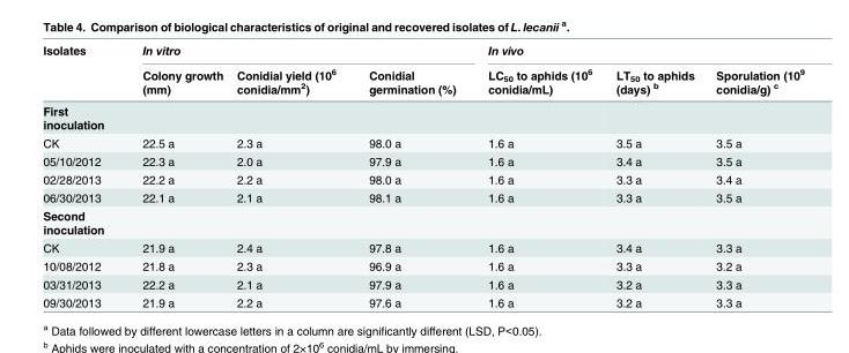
<table><thead><tr><td rowspan="2">Isolates</td><td colspan="3">In vitro</td><td colspan="3">In vivo</td></tr><tr><td>Colony growth (mm)</td><td>Conidial yield (10<sup>6</sup> conidia/mm<sup>2</sup>)</td><td>Conidial germination (%)</td><td>LC<sub>50</sub> to aphids (10<sup>6</sup> conidia/mL)</td><td>LT<sub>50</sub> to aphids (days) <sup>b</sup></td><td>Sporulation (10<sup>9</sup> conidia/g) <sup>c</sup></td></tr></thead><tbody><tr><td colspan="7">First inoculation</td></tr><tr><td>CK</td><td>22.5 a</td><td>2.3 a</td><td>98.0 a</td><td>1.6 a</td><td>3.5 a</td><td>3.5 a</td></tr><tr><td>05/10/2012</td><td>22.3 a</td><td>2.0 a</td><td>97.9 a</td><td>1.6 a</td><td>3.4 a</td><td>3.5 a</td></tr><tr><td>02/28/2013</td><td>22.2 a</td><td>2.2 a</td><td>98.0 a</td><td>1.6 a</td><td>3.3 a</td><td>3.4 a</td></tr><tr><td>06/30/2013</td><td>22.1 a</td><td>2.1 a</td><td>98.1 a</td><td>1.6 a</td><td>3.3 a</td><td>3.5 a</td></tr><tr><td colspan="7">Second inoculation</td></tr><tr><td>CK</td><td>21.9 a</td><td>2.4 a</td><td>97.8 a</td><td>1.6 a</td><td>3.4 a</td><td>3.3 a</td></tr><tr><td>10/08/2012</td><td>21.8 a</td><td>2.3 a</td><td>96.9 a</td><td>1.6 a</td><td>3.3 a</td><td>3.2 a</td></tr><tr><td>03/31/2013</td><td>22.2 a</td><td>2.1 a</td><td>97.9 a</td><td>1.6 a</td><td>3.2 a</td><td>3.3 a</td></tr><tr><td>09/30/2013</td><td>21.9 a</td><td>2.2 a</td><td>97.6 a</td><td>1.6 a</td><td>3.2 a</td><td>3.3 a</td></tr></tbody></table>